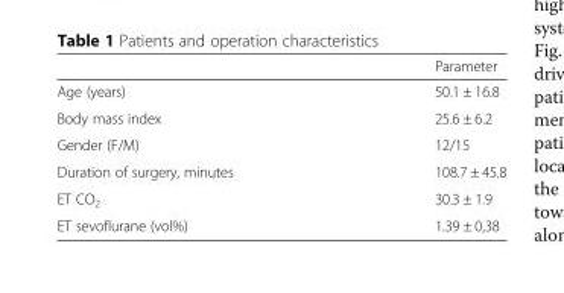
<table><thead><tr><td></td><td>Parameter</td></tr></thead><tbody><tr><td>Age (years)</td><td>50.1 ± 16.8</td></tr><tr><td>Body mass index</td><td>25.6 ± 6.2</td></tr><tr><td>Gender (F/M)</td><td>12/15</td></tr><tr><td>Duration of surgery, minutes</td><td>108.7 ± 45.8</td></tr><tr><td>ET CO<sub>2</sub></td><td>30.3 ± 1.9</td></tr><tr><td>ET sevoflurane (vol%)</td><td>1.39 ± 0,38</td></tr></tbody></table>